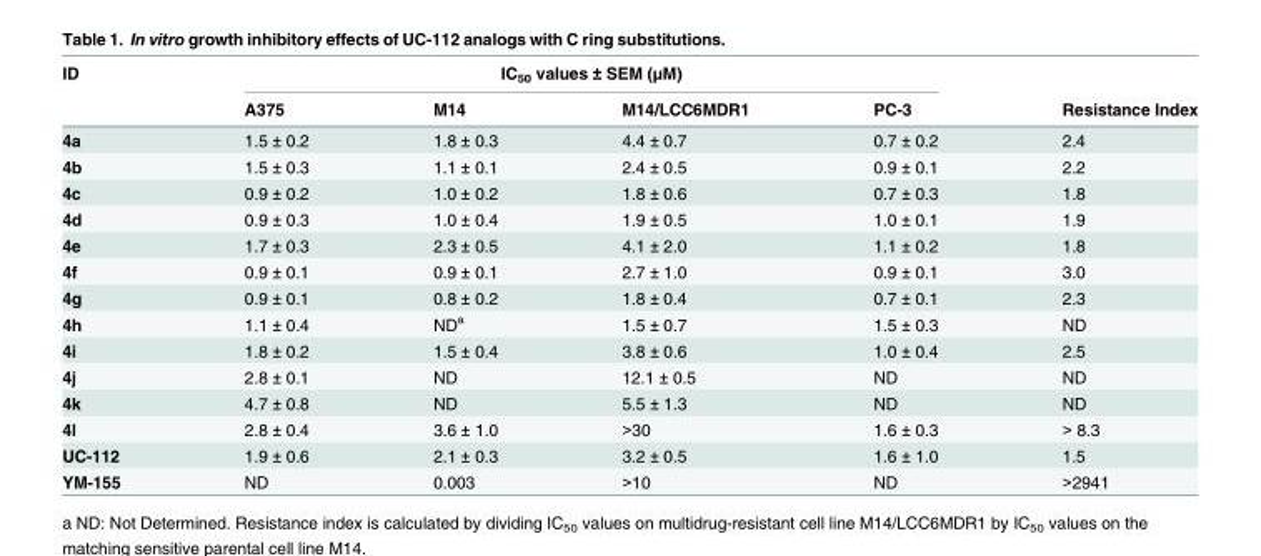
<table><thead><tr><td rowspan="2">ID</td><td colspan="4">IC<sub>50</sub> values ± SEM (μM)</td><td rowspan="2">Resistance Index</td></tr><tr><td>A375</td><td>M14</td><td>M14/LCC6MDR1</td><td>PC-3</td></tr></thead><tbody><tr><td>4a</td><td>1.5 ± 0.2</td><td>1.8 ± 0.3</td><td>4.4 ± 0.7</td><td>0.7 ± 0.2</td><td>2.4</td></tr><tr><td>4b</td><td>1.5 ± 0.3</td><td>1.1 ± 0.1</td><td>2.4 ± 0.5</td><td>0.9 ± 0.1</td><td>2.2</td></tr><tr><td>4c</td><td>0.9 ± 0.2</td><td>1.0 ± 0.2</td><td>1.8 ± 0.6</td><td>0.7 ± 0.3</td><td>1.8</td></tr><tr><td>4d</td><td>0.9 ± 0.3</td><td>1.0 ± 0.4</td><td>1.9 ± 0.5</td><td>1.0 ± 0.1</td><td>1.9</td></tr><tr><td>4e</td><td>1.7 ± 0.3</td><td>2.3 ± 0.5</td><td>4.1 ± 2.0</td><td>1.1 ± 0.2</td><td>1.8</td></tr><tr><td>4f</td><td>0.9 ± 0.1</td><td>0.9 ± 0.1</td><td>2.7 ± 1.0</td><td>0.9 ± 0.1</td><td>3.0</td></tr><tr><td>4g</td><td>0.9 ± 0.1</td><td>0.8 ± 0.2</td><td>1.8 ± 0.4</td><td>0.7 ± 0.1</td><td>2.3</td></tr><tr><td>4h</td><td>1.1 ± 0.4</td><td>ND<sup>a</sup></td><td>1.5 ± 0.7</td><td>1.5 ± 0.3</td><td>ND</td></tr><tr><td>4i</td><td>1.8 ± 0.2</td><td>1.5 ± 0.4</td><td>3.8 ± 0.6</td><td>1.0 ± 0.4</td><td>2.5</td></tr><tr><td>4j</td><td>2.8 ± 0.1</td><td>ND</td><td>12.1 ± 0.5</td><td>ND</td><td>ND</td></tr><tr><td>4k</td><td>4.7 ± 0.8</td><td>ND</td><td>5.5 ± 1.3</td><td>ND</td><td>ND</td></tr><tr><td>4l</td><td>2.8 ± 0.4</td><td>3.6 ± 1.0</td><td>&gt;30</td><td>1.6 ± 0.3</td><td>&gt; 8.3</td></tr><tr><td>UC-112</td><td>1.9 ± 0.6</td><td>2.1 ± 0.3</td><td>3.2 ± 0.5</td><td>1.6 ± 1.0</td><td>1.5</td></tr><tr><td>YM-155</td><td>ND</td><td>0.003</td><td>&gt;10</td><td>ND</td><td>&gt;2941</td></tr></tbody></table>